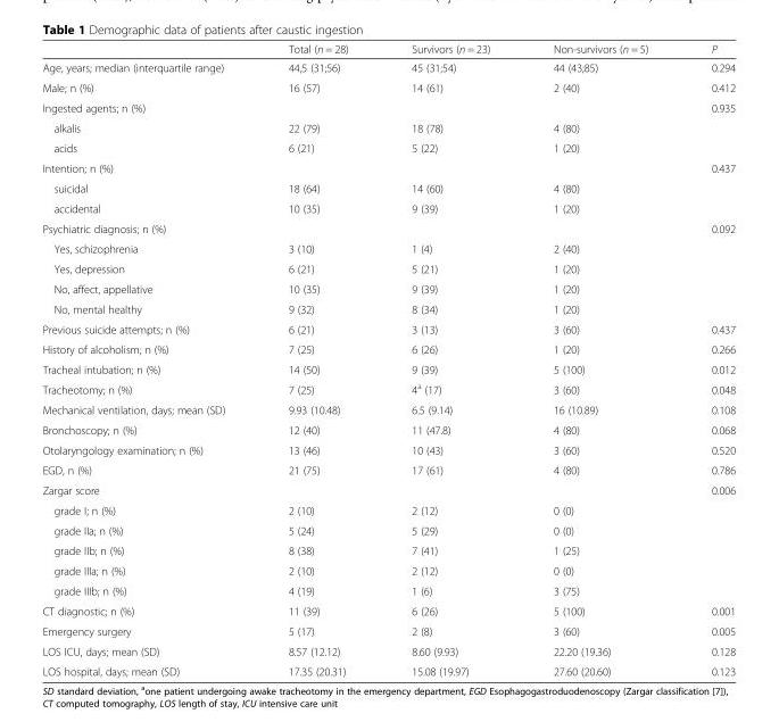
<table><thead><tr><td></td><td>Total (n = 28)</td><td>Survivors (n = 23)</td><td>Non-survivors (n = 5)</td><td>P</td></tr></thead><tbody><tr><td>Age, years; median (interquartile range)</td><td>44,5 (31;56)</td><td>45 (31;54)</td><td>44 (43;85)</td><td>0.294</td></tr><tr><td>Male; n (%)</td><td rowspan="2">16 (57)</td><td rowspan="2">14 (61)</td><td rowspan="2">2 (40)</td><td>0.412</td></tr><tr><td>Ingested agents; n (%)</td><td>0.935</td></tr><tr><td>alkalis</td><td>22 (79)</td><td>18 (78)</td><td>4 (80)</td><td></td></tr><tr><td>acids</td><td>6 (21)</td><td>5 (22)</td><td>1 (20)</td><td></td></tr><tr><td>Intention; n (%)</td><td></td><td></td><td></td><td>0.437</td></tr><tr><td>suicidal</td><td>18 (64)</td><td>14 (60)</td><td>4 (80)</td><td></td></tr><tr><td>accidental</td><td>10 (35)</td><td>9 (39)</td><td>1 (20)</td><td></td></tr><tr><td>Psychiatric diagnosis; n (%)</td><td></td><td></td><td></td><td>0.092</td></tr><tr><td>Yes, schizophrenia</td><td>3 (10)</td><td>1 (4)</td><td>2 (40)</td><td></td></tr><tr><td>Yes, depression</td><td>6 (21)</td><td>5 (21)</td><td>1 (20)</td><td></td></tr><tr><td>No, affect, appellative</td><td>10 (35)</td><td>9 (39)</td><td>1 (20)</td><td></td></tr><tr><td>No, mental healthy</td><td>9 (32)</td><td>8 (34)</td><td>1 (20)</td><td></td></tr><tr><td>Previous suicide attempts; n (%)</td><td>6 (21)</td><td>3 (13)</td><td>3 (60)</td><td>0.437</td></tr><tr><td>History of alcoholism; n (%)</td><td>7 (25)</td><td>6 (26)</td><td>1 (20)</td><td>0.266</td></tr><tr><td>Tracheal intubation; n (%)</td><td>14 (50)</td><td>9 (39)</td><td>5 (100)</td><td>0.012</td></tr><tr><td>Tracheotomy; n (%)</td><td>7 (25)</td><td>4<sup>a</sup> (17)</td><td>3 (60)</td><td>0.048</td></tr><tr><td>Mechanical ventilation, days; mean (SD)</td><td>9.93 (10.48)</td><td>6.5 (9.14)</td><td>16 (10.89)</td><td>0.108</td></tr><tr><td>Bronchoscopy; n (%)</td><td>12 (40)</td><td>11 (47.8)</td><td>4 (80)</td><td>0.068</td></tr><tr><td>Otolaryngology examination; n (%)</td><td>13 (46)</td><td>10 (43)</td><td>3 (60)</td><td>0.520</td></tr><tr><td>EGD, n (%)</td><td>21 (75)</td><td>17 (61)</td><td>4 (80)</td><td>0.786</td></tr><tr><td>Zargar score</td><td></td><td></td><td></td><td>0.006</td></tr><tr><td>grade I; n (%)</td><td>2 (10)</td><td>2 (12)</td><td>0 (0)</td><td></td></tr><tr><td>grade IIa; n (%)</td><td>5 (24)</td><td>5 (29)</td><td>0 (0)</td><td></td></tr><tr><td>grade IIb; n (%)</td><td>8 (38)</td><td>7 (41)</td><td>1 (25)</td><td></td></tr><tr><td>grade IIIa; n (%)</td><td>2 (10)</td><td>2 (12)</td><td>0 (0)</td><td></td></tr><tr><td>grade IIIb; n (%)</td><td>4 (19)</td><td>1 (6)</td><td>3 (75)</td><td></td></tr><tr><td>CT diagnostic; n (%)</td><td>11 (39)</td><td>6 (26)</td><td>5 (100)</td><td>0.001</td></tr><tr><td>Emergency surgery</td><td>5 (17)</td><td>2 (8)</td><td>3 (60)</td><td>0.005</td></tr><tr><td>LOS ICU, days; mean (SD)</td><td>8.57 (12.12)</td><td>8.60 (9.93)</td><td>22.20 (19.36)</td><td>0.128</td></tr><tr><td>LOS hospital, days; mean (SD)</td><td>17.35 (20.31)</td><td>15.08 (19.97)</td><td>27.60 (20.60)</td><td>0.123</td></tr></tbody></table>